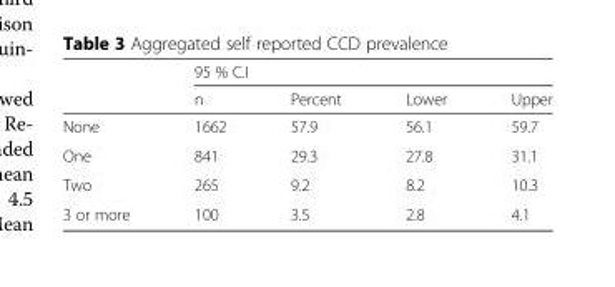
<table><thead><tr><td rowspan="2"></td><td colspan="4">95 % C.I</td></tr><tr><td>n</td><td>Percent</td><td>Lower</td><td>Upper</td></tr></thead><tbody><tr><td>None</td><td>1662</td><td>57.9</td><td>56.1</td><td>59.7</td></tr><tr><td>One</td><td>841</td><td>29.3</td><td>27.8</td><td>31.1</td></tr><tr><td>Two</td><td>265</td><td>9.2</td><td>8.2</td><td>10.3</td></tr><tr><td>3 or more</td><td>100</td><td>3.5</td><td>2.8</td><td>4.1</td></tr></tbody></table>